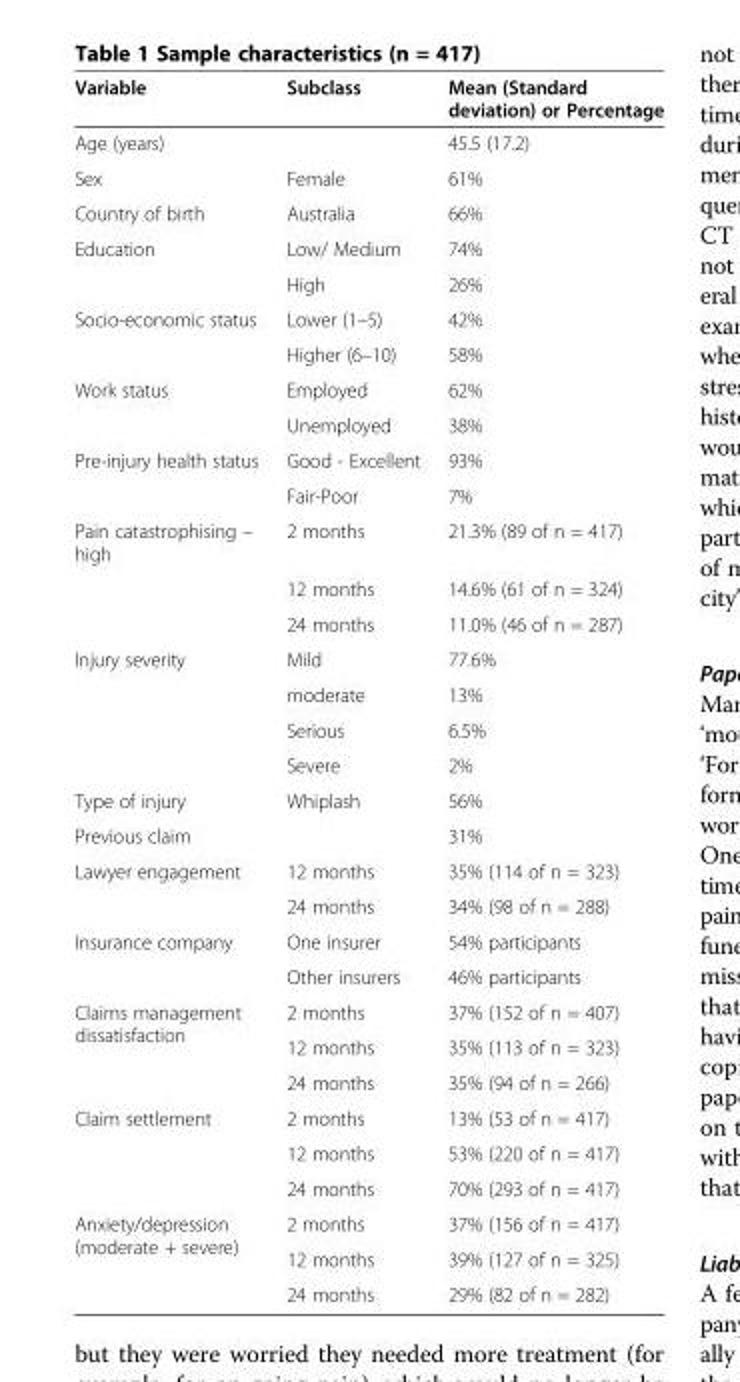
<table><thead><tr><td>Variable</td><td>Subclass</td><td>Mean (Standard deviation) or Percentage</td></tr></thead><tbody><tr><td>Age (years)</td><td></td><td>45.5 (17.2)</td></tr><tr><td>Sex</td><td>Female</td><td>61%</td></tr><tr><td>Country of birth</td><td>Australia</td><td>66%</td></tr><tr><td rowspan="2">Education</td><td>Low/ Medium</td><td>74%</td></tr><tr><td>High</td><td>26%</td></tr><tr><td rowspan="2">Socio-economic status</td><td>Lower (1–5)</td><td>42%</td></tr><tr><td>Higher (6–10)</td><td>58%</td></tr><tr><td rowspan="2">Work status</td><td>Employed</td><td>62%</td></tr><tr><td>Unemployed</td><td>38%</td></tr><tr><td rowspan="2">Pre-injury health status</td><td>Good - Excellent</td><td>93%</td></tr><tr><td>Fair-Poor</td><td>7%</td></tr><tr><td rowspan="3">Pain catastrophising – high</td><td>2 months</td><td>21.3% (89 of n = 417)</td></tr><tr><td>12 months</td><td>14.6% (61 of n = 324)</td></tr><tr><td>24 months</td><td>11.0% (46 of n = 287)</td></tr><tr><td rowspan="4">Injury severity</td><td>Mild</td><td>77.6%</td></tr><tr><td>moderate</td><td>13%</td></tr><tr><td>Serious</td><td>6.5%</td></tr><tr><td>Severe</td><td>2%</td></tr><tr><td>Type of injury</td><td>Whiplash</td><td>56%</td></tr><tr><td>Previous claim</td><td></td><td>31%</td></tr><tr><td rowspan="2">Lawyer engagement</td><td>12 months</td><td>35% (114 of n = 323)</td></tr><tr><td>24 months</td><td>34% (98 of n = 288)</td></tr><tr><td rowspan="2">Insurance company</td><td>One insurer</td><td>54% participants</td></tr><tr><td>Other insurers</td><td>46% participants</td></tr><tr><td rowspan="3">Claims management dissatisfaction</td><td>2 months</td><td>37% (152 of n = 407)</td></tr><tr><td>12 months</td><td>35% (113 of n = 323)</td></tr><tr><td>24 months</td><td>35% (94 of n = 266)</td></tr><tr><td rowspan="3">Claim settlement</td><td>2 months</td><td>13% (53 of n = 417)</td></tr><tr><td>12 months</td><td>53% (220 of n = 417)</td></tr><tr><td>24 months</td><td>70% (293 of n = 417)</td></tr><tr><td rowspan="3">Anxiety/depression (moderate + severe)</td><td>2 months</td><td>37% (156 of n = 417)</td></tr><tr><td>12 months</td><td>39% (127 of n = 325)</td></tr><tr><td>24 months</td><td>29% (82 of n = 282)</td></tr></tbody></table>